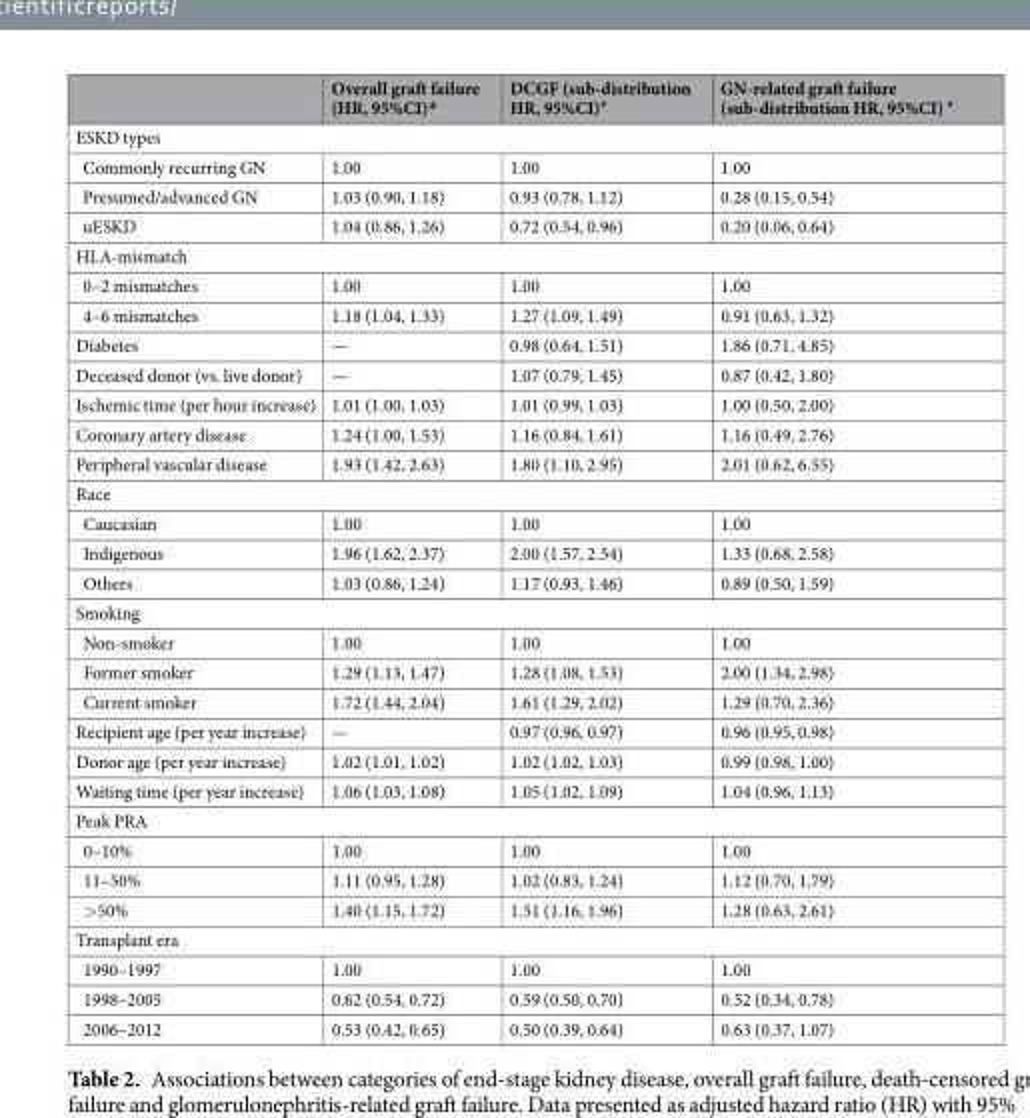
<table><thead><tr><td></td><td>Overall graft failure (HR, 95%CI)*</td><td>DCGF (sub-distribution HR, 95%CI)<sup>#</sup></td><td>GN-related graft failure (sub-distribution HR, 95%CI) <sup>#</sup></td></tr></thead><tbody><tr><td colspan="4">ESKD types</td></tr><tr><td>Commonly recurring GN</td><td>1.00</td><td>1.00</td><td>1.00</td></tr><tr><td>Presumed/advanced GN</td><td>1.03 (0.90, 1.18)</td><td>0.93 (0.78, 1.12)</td><td>0.28 (0.15, 0.54)</td></tr><tr><td>uESKD</td><td>1.04 (0.86, 1.26)</td><td>0.72 (0.54, 0.96)</td><td>0.20 (0.06, 0.64)</td></tr><tr><td colspan="4">HLA-mismatch</td></tr><tr><td>0–2 mismatches</td><td>1.00</td><td>1.00</td><td>1.00</td></tr><tr><td>4–6 mismatches</td><td>1.18 (1.04, 1.33)</td><td>1.27 (1.09, 1.49)</td><td>0.91 (0.63, 1.32)</td></tr><tr><td>Diabetes</td><td>—</td><td>0.98 (0.64, 1.51)</td><td>1.86 (0.71, 4.85)</td></tr><tr><td>Deceased donor (vs. live donor)</td><td>—</td><td>1.07 (0.79, 1.45)</td><td>0.87 (0.42, 1.80)</td></tr><tr><td>Ischemic time (per hour increase)</td><td>1.01 (1.00, 1.03)</td><td>1.01 (0.99, 1.03)</td><td>1.00 (0.50, 2.00)</td></tr><tr><td>Coronary artery disease</td><td>1.24 (1.00, 1.53)</td><td>1.16 (0.84, 1.61)</td><td>1.16 (0.49, 2.76)</td></tr><tr><td>Peripheral vascular disease</td><td>1.93 (1.42, 2.63)</td><td>1.80 (1.10, 2.95)</td><td>2.01 (0.62, 6.55)</td></tr><tr><td colspan="4">Race</td></tr><tr><td>Caucasian</td><td>1.00</td><td>1.00</td><td>1.00</td></tr><tr><td>Indigenous</td><td>1.96 (1.62, 2.37)</td><td>2.00 (1.57, 2.54)</td><td>1.33 (0.68, 2.58)</td></tr><tr><td>Others</td><td>1.03 (0.86, 1.24)</td><td>1.17 (0.93, 1.46)</td><td>0.89 (0.50, 1.59)</td></tr><tr><td colspan="4">Smoking</td></tr><tr><td>Non-smoker</td><td>1.00</td><td>1.00</td><td>1.00</td></tr><tr><td>Former smoker</td><td>1.29 (1.13, 1.47)</td><td>1.28 (1.08, 1.53)</td><td>2.00 (1.34, 2.98)</td></tr><tr><td>Current smoker</td><td>1.72 (1.44, 2.04)</td><td>1.61 (1.29, 2.02)</td><td>1.29 (0.70, 2.36)</td></tr><tr><td>Recipient age (per year increase)</td><td>—</td><td>0.97 (0.96, 0.97)</td><td>0.96 (0.95, 0.98)</td></tr><tr><td>Donor age (per year increase)</td><td>1.02 (1.01, 1.02)</td><td>1.02 (1.02, 1.03)</td><td>0.99 (0.98, 1.00)</td></tr><tr><td>Waiting time (per year increase)</td><td>1.06 (1.03, 1.08)</td><td>1.05 (1.02, 1.09)</td><td>1.04 (0.96, 1.13)</td></tr><tr><td colspan="4">Peak PRA</td></tr><tr><td>0–10%</td><td>1.00</td><td>1.00</td><td>1.00</td></tr><tr><td>11–50%</td><td>1.11 (0.95, 1.28)</td><td>1.02 (0.83, 1.24)</td><td>1.12 (0.70, 1.79)</td></tr><tr><td>&gt;50%</td><td>1.40 (1.15, 1.72)</td><td>1.51 (1.16, 1.96)</td><td>1.28 (0.63, 2.61)</td></tr><tr><td colspan="4">Transplant era</td></tr><tr><td>1990–1997</td><td>1.00</td><td>1.00</td><td>1.00</td></tr><tr><td>1998–2005</td><td>0.62 (0.54, 0.72)</td><td>0.59 (0.50, 0.70)</td><td>0.52 (0.34, 0.78)</td></tr><tr><td>2006–2012</td><td>0.53 (0.42, 0.65)</td><td>0.50 (0.39, 0.64)</td><td>0.63 (0.37, 1.07)</td></tr></tbody></table>